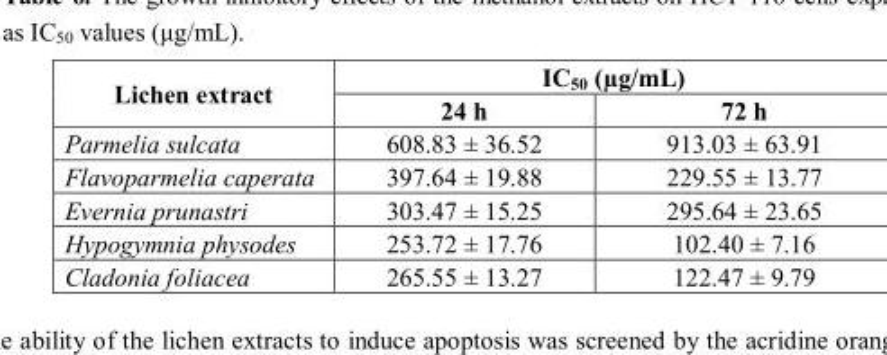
<table><thead><tr><td rowspan="2">Lichen extract</td><td colspan="2">IC<sub>50</sub> (µg/mL)</td></tr><tr><td>24 h</td><td>72 h</td></tr></thead><tbody><tr><td>Parmelia sulcata</td><td>608.83 ± 36.52</td><td>913.03 ± 63.91</td></tr><tr><td>Flavoparmelia caperata</td><td>397.64 ± 19.88</td><td>229.55 ± 13.77</td></tr><tr><td>Evernia prunastri</td><td>303.47 ± 15.25</td><td>295.64 ± 23.65</td></tr><tr><td>Hypogymnia physodes</td><td>253.72 ± 17.76</td><td>102.40 ± 7.16</td></tr><tr><td>Cladonia foliacea</td><td>265.55 ± 13.27</td><td>122.47 ± 9.79</td></tr></tbody></table>